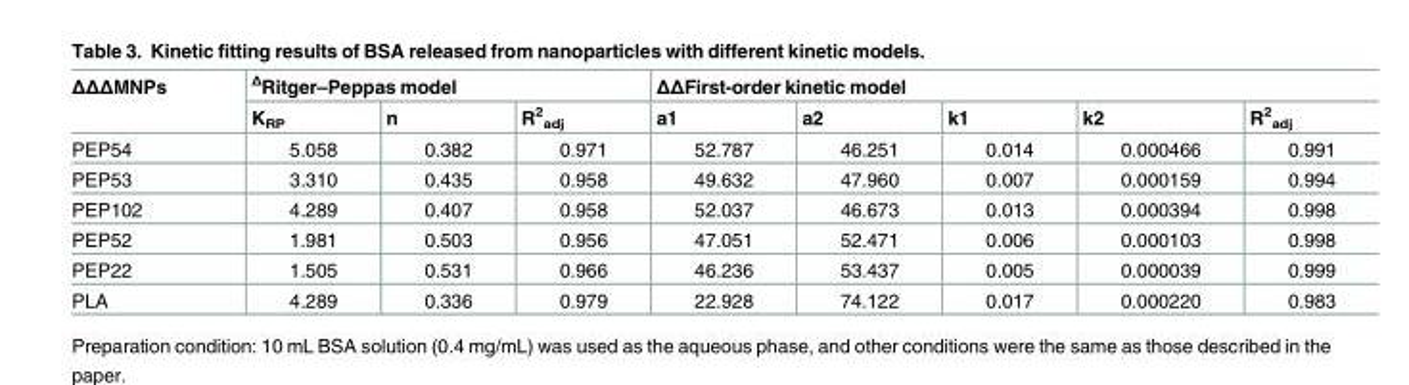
<table><thead><tr><td rowspan="2">ΔΔΔMNPs</td><td colspan="3"><sup>Δ</sup>Ritger–Peppas model</td><td colspan="5">ΔΔFirst-order kinetic model</td></tr><tr><td>K<sub>RP</sub></td><td>n</td><td>R<sup>2</sup> <sub>adj</sub></td><td>a1</td><td>a2</td><td>k1</td><td>k2</td><td>R<sup>2</sup> <sub>adj</sub></td></tr></thead><tbody><tr><td>PEP54</td><td>5.058</td><td>0.382</td><td>0.971</td><td>52.787</td><td>46.251</td><td>0.014</td><td>0.000466</td><td>0.991</td></tr><tr><td>PEP53</td><td>3.310</td><td>0.435</td><td>0.958</td><td>49.632</td><td>47.960</td><td>0.007</td><td>0.000159</td><td>0.994</td></tr><tr><td>PEP102</td><td>4.289</td><td>0.407</td><td>0.958</td><td>52.037</td><td>46.673</td><td>0.013</td><td>0.000394</td><td>0.998</td></tr><tr><td>PEP52</td><td>1.981</td><td>0.503</td><td>0.956</td><td>47.051</td><td>52.471</td><td>0.006</td><td>0.000103</td><td>0.998</td></tr><tr><td>PEP22</td><td>1.505</td><td>0.531</td><td>0.966</td><td>46.236</td><td>53.437</td><td>0.005</td><td>0.000039</td><td>0.999</td></tr><tr><td>PLA</td><td>4.289</td><td>0.336</td><td>0.979</td><td>22.928</td><td>74.122</td><td>0.017</td><td>0.000220</td><td>0.983</td></tr></tbody></table>